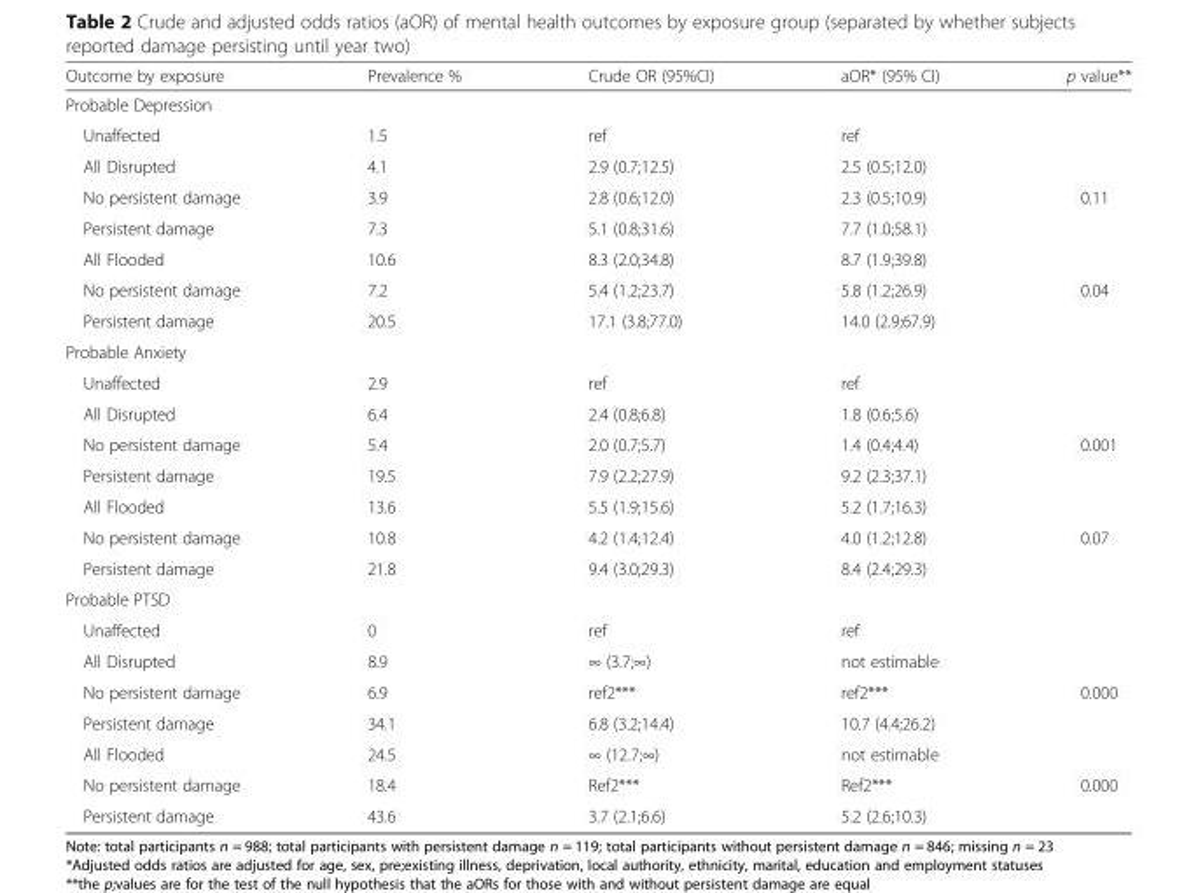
<table><thead><tr><td>Outcome by exposure</td><td>Prevalence %</td><td>Crude OR (95%CI)</td><td>aOR* (95% CI)</td><td>p value**</td></tr></thead><tbody><tr><td colspan="5">Probable Depression</td></tr><tr><td>Unaffected</td><td>1.5</td><td>ref</td><td>ref</td><td></td></tr><tr><td>All Disrupted</td><td>4.1</td><td>2.9 (0.7;12.5)</td><td>2.5 (0.5;12.0)</td><td></td></tr><tr><td>No persistent damage</td><td>3.9</td><td>2.8 (0.6;12.0)</td><td>2.3 (0.5;10.9)</td><td rowspan="2">0.11</td></tr><tr><td>Persistent damage</td><td>7.3</td><td>5.1 (0.8;31.6)</td><td>7.7 (1.0;58.1)</td></tr><tr><td>All Flooded</td><td>10.6</td><td>8.3 (2.0;34.8)</td><td>8.7 (1.9;39.8)</td><td></td></tr><tr><td>No persistent damage</td><td>7.2</td><td>5.4 (1.2;23.7)</td><td>5.8 (1.2;26.9)</td><td rowspan="2">0.04</td></tr><tr><td>Persistent damage</td><td>20.5</td><td>17.1 (3.8;77.0)</td><td>14.0 (2.9;67.9)</td></tr><tr><td colspan="5">Probable Anxiety</td></tr><tr><td>Unaffected</td><td>2.9</td><td>ref</td><td>ref</td><td></td></tr><tr><td>All Disrupted</td><td>6.4</td><td>2.4 (0.8;6.8)</td><td>1.8 (0.6;5.6)</td><td></td></tr><tr><td>No persistent damage</td><td>5.4</td><td>2.0 (0.7;5.7)</td><td>1.4 (0.4;4.4)</td><td rowspan="2">0.001</td></tr><tr><td>Persistent damage</td><td>19.5</td><td>7.9 (2.2;27.9)</td><td>9.2 (2.3;37.1)</td></tr><tr><td>All Flooded</td><td>13.6</td><td>5.5 (1.9;15.6)</td><td>5.2 (1.7;16.3)</td><td></td></tr><tr><td>No persistent damage</td><td>10.8</td><td>4.2 (1.4;12.4)</td><td>4.0 (1.2;12.8)</td><td rowspan="2">0.07</td></tr><tr><td>Persistent damage</td><td>21.8</td><td>9.4 (3.0;29.3)</td><td>8.4 (2.4;29.3)</td></tr><tr><td colspan="5">Probable PTSD</td></tr><tr><td>Unaffected</td><td>0</td><td>ref</td><td>ref</td><td></td></tr><tr><td>All Disrupted</td><td>8.9</td><td>∞ (3.7;∞)</td><td>not estimable</td><td></td></tr><tr><td>No persistent damage</td><td>6.9</td><td>ref2***</td><td>ref2***</td><td rowspan="2">0.000</td></tr><tr><td>Persistent damage</td><td>34.1</td><td>6.8 (3.2;14.4)</td><td>10.7 (4.4;26.2)</td></tr><tr><td>All Flooded</td><td>24.5</td><td>∞ (12.7;∞)</td><td>not estimable</td><td></td></tr><tr><td>No persistent damage</td><td>18.4</td><td>Ref2***</td><td>Ref2***</td><td rowspan="2">0.000</td></tr><tr><td>Persistent damage</td><td>43.6</td><td>3.7 (2.1;6.6)</td><td>5.2 (2.6;10.3)</td></tr></tbody></table>